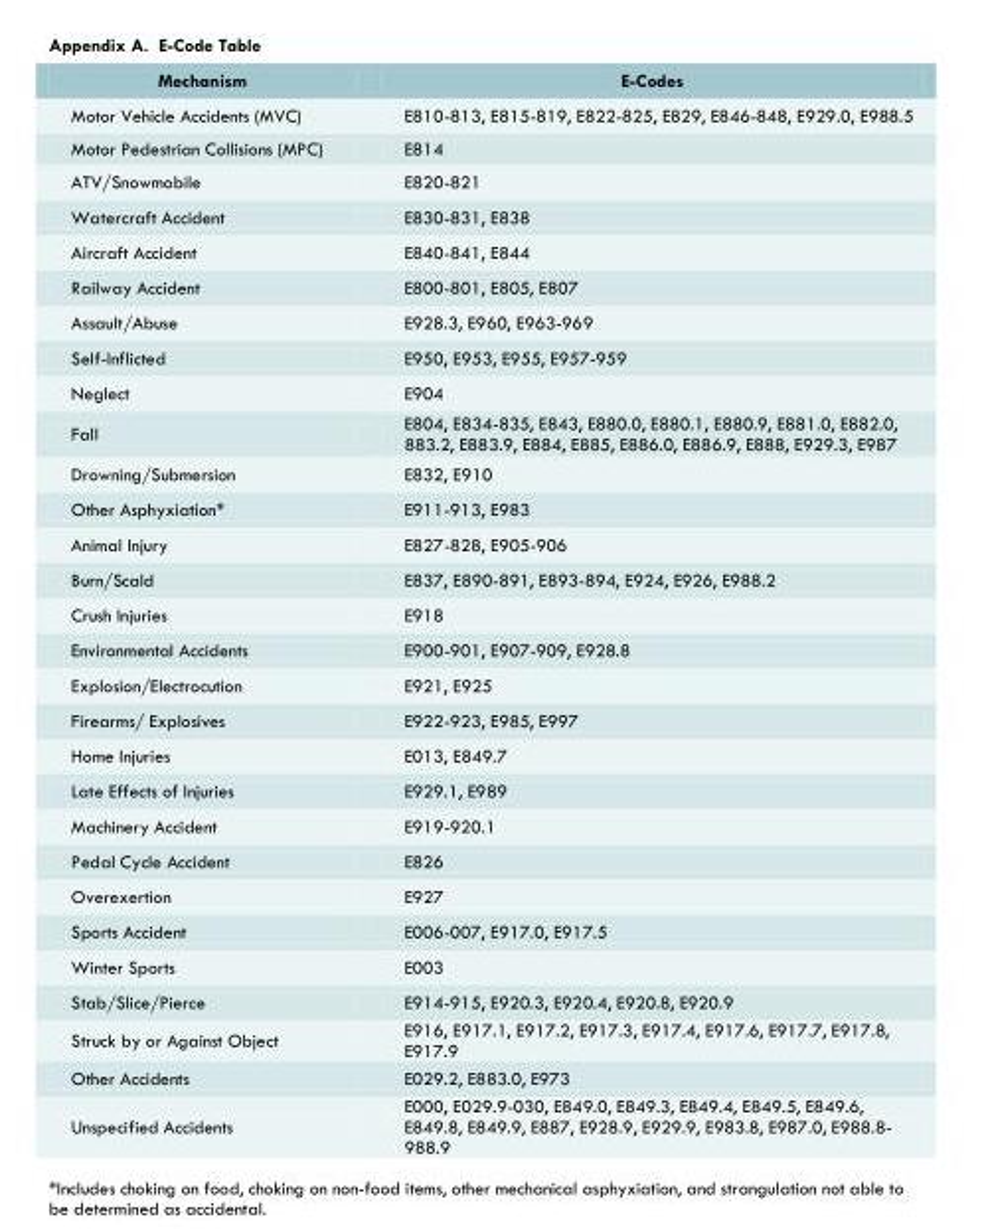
<table><thead><tr><td>Mechanism</td><td>E-Codes</td></tr></thead><tbody><tr><td>Motor Vehicle Accidents (MVC)</td><td>E810-813, E815-819, E822-825, E829, E846-848, E929.0, E988.5</td></tr><tr><td>Motor Pedestrian Collisions (MPC)</td><td>E814</td></tr><tr><td>ATV/Snowmobile</td><td>E820-821</td></tr><tr><td>Watercraft Accident</td><td>E830-831, E838</td></tr><tr><td>Aircraft Accident</td><td>E840-841, E844</td></tr><tr><td>Railway Accident</td><td>E800-801, E805, E807</td></tr><tr><td>Assault/Abuse</td><td>E928.3, E960, E963-969</td></tr><tr><td>Self-Inflicted</td><td>E950, E953, E955, E957-959</td></tr><tr><td>Neglect</td><td>E904</td></tr><tr><td>Fall</td><td>E804, E834-835, E843, E880.0, E880.1, E880.9, E881.0, E882.0, 883.2, E883.9, E884, E885, E886.0, E886.9, E888, E929.3, E987</td></tr><tr><td>Drowning/Submersion</td><td>E832, E910</td></tr><tr><td>Other Asphyxiation*</td><td>E911-913, E983</td></tr><tr><td>Animal Injury</td><td>E827-828, E905-906</td></tr><tr><td>Burn/Scald</td><td>E837, E890-891, E893-894, E924, E926, E988.2</td></tr><tr><td>Crush Injuries</td><td>E918</td></tr><tr><td>Environmental Accidents</td><td>E900-901, E907-909, E928.8</td></tr><tr><td>Explosion/Electrocution</td><td>E921, E925</td></tr><tr><td>Firearms/ Explosives</td><td>E922-923, E985, E997</td></tr><tr><td>Home Injuries</td><td>E013, E849.7</td></tr><tr><td>Late Effects of Injuries</td><td>E929.1, E989</td></tr><tr><td>Machinery Accident</td><td>E919-920.1</td></tr><tr><td>Pedal Cycle Accident</td><td>E826</td></tr><tr><td>Overexertion</td><td>E927</td></tr><tr><td>Sports Accident</td><td>E006-007, E917.0, E917.5</td></tr><tr><td>Winter Sports</td><td>E003</td></tr><tr><td>Stab/Slice/Pierce</td><td>E914-915, E920.3, E920.4, E920.8, E920.9</td></tr><tr><td>Struck by or Against Object</td><td>E916, E917.1, E917.2, E917.3, E917.4, E917.6, E917.7, E917.8, E917.9</td></tr><tr><td>Other Accidents</td><td>E029.2, E883.0, E973</td></tr><tr><td>Unspecified Accidents</td><td>E000, E029.9-030, E849.0, E849.3, E849.4, E849.5, E849.6, E849.8, E849.9, E887, E928.9, E929.9, E983.8, E987.0, E988.8- 988.9</td></tr></tbody></table>